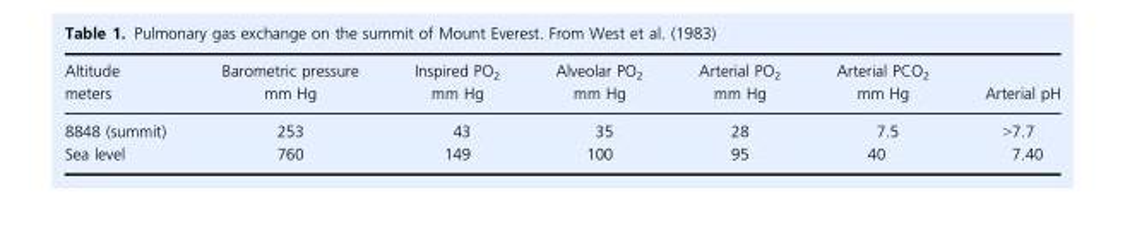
<table><thead><tr><td>Altitude meters</td><td>Barometric pressure mm Hg</td><td>Inspired PO<sub>2</sub> mm Hg</td><td>Alveolar PO<sub>2</sub> mm Hg</td><td>Arterial PO<sub>2</sub> mm Hg</td><td>Arterial PCO<sub>2</sub> mm Hg</td><td>Arterial pH</td></tr></thead><tbody><tr><td>8848 (summit)</td><td>253</td><td>43</td><td>35</td><td>28</td><td>7.5</td><td>&gt;7.7</td></tr><tr><td>Sea level</td><td>760</td><td>149</td><td>100</td><td>95</td><td>40</td><td>7.40</td></tr></tbody></table>